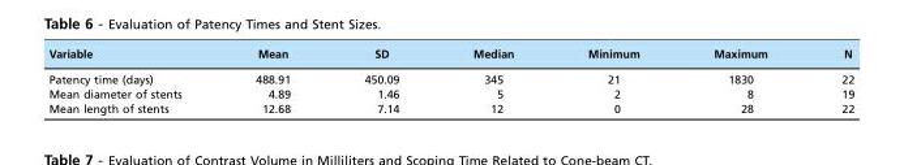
<table><thead><tr><td>Variable</td><td>Mean</td><td>SD</td><td>Median</td><td>Minimum</td><td>Maximum</td><td>N</td></tr></thead><tbody><tr><td>Patency time (days)</td><td>488.91</td><td>450.09</td><td>345</td><td>21</td><td>1830</td><td>22</td></tr><tr><td>Mean diameter of stents</td><td>4.89</td><td>1.46</td><td>5</td><td>2</td><td>8</td><td>19</td></tr><tr><td>Mean length of stents</td><td>12.68</td><td>7.14</td><td>12</td><td>0</td><td>28</td><td>22</td></tr></tbody></table>